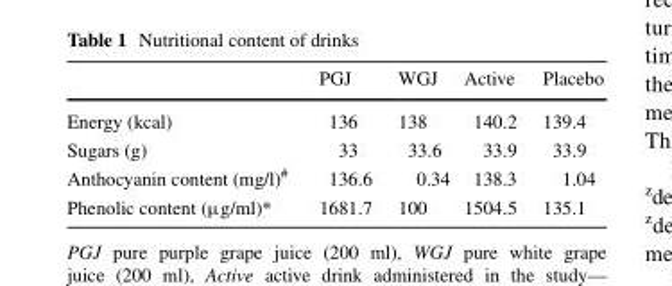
<table><thead><tr><td></td><td>PGJ</td><td>WGJ</td><td>Active</td><td>Placebo</td></tr></thead><tbody><tr><td>Energy (kcal)</td><td>136</td><td>138</td><td>140.2</td><td>139.4</td></tr><tr><td>Sugars (g)</td><td>33</td><td>33.6</td><td>33.9</td><td>33.9</td></tr><tr><td>Anthocyanin content (mg/l)<sup>#</sup></td><td>136.6</td><td>0.34</td><td>138.3</td><td>1.04</td></tr><tr><td>Phenolic content (μg/ml)*</td><td>1681.7</td><td>100</td><td>1504.5</td><td>135.1</td></tr></tbody></table>